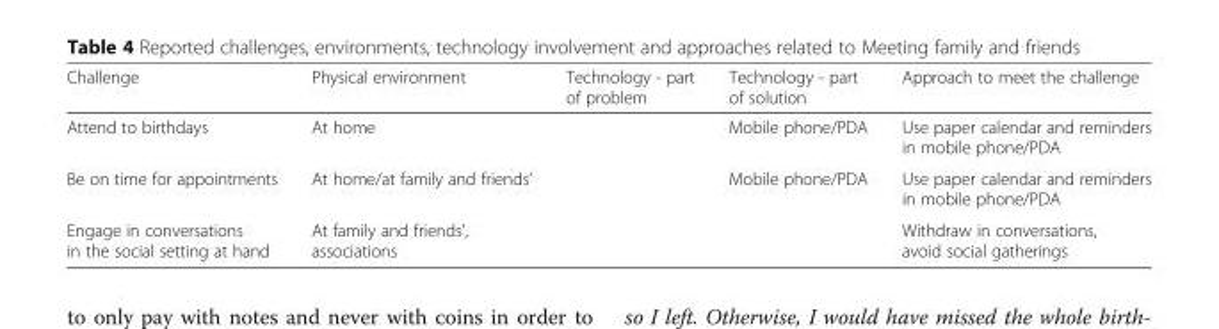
<table><thead><tr><td>Challenge</td><td>Physical environment</td><td>Technology - part of problem</td><td>Technology - part of solution</td><td>Approach to meet the challenge</td></tr></thead><tbody><tr><td>Attend to birthdays</td><td>At home</td><td></td><td>Mobile phone/PDA</td><td>Use paper calendar and reminders in mobile phone/PDA</td></tr><tr><td>Be on time for appointments</td><td>At home/at family and friends’</td><td></td><td>Mobile phone/PDA</td><td>Use paper calendar and reminders in mobile phone/PDA</td></tr><tr><td>Engage in conversations in the social setting at hand</td><td>At family and friends’, associations</td><td></td><td></td><td>Withdraw in conversations, avoid social gatherings</td></tr></tbody></table>